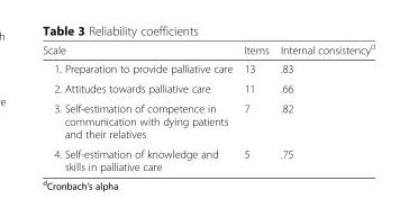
<table><thead><tr><td>Scale</td><td>Items</td><td>Internal consistency<sup>d</sup></td></tr></thead><tbody><tr><td>1. Preparation to provide palliative care</td><td>13</td><td>.83</td></tr><tr><td>2. Attitudes towards palliative care</td><td>11</td><td>.66</td></tr><tr><td>3. Self-estimation of competence in communication with dying patients and their relatives</td><td>7</td><td>.82</td></tr><tr><td>4. Self-estimation of knowledge and skills in palliative care</td><td>5</td><td>.75</td></tr></tbody></table>